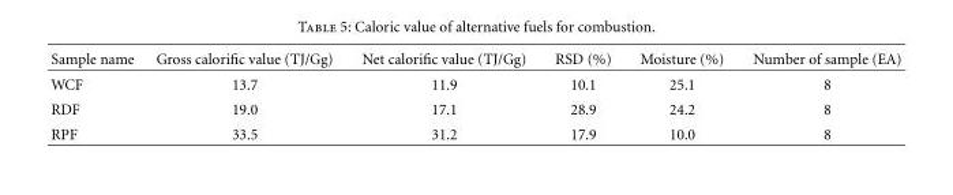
<table><thead><tr><td>Sample name</td><td>Gross calorific value (TJ/Gg)</td><td>Net calorific value (TJ/Gg)</td><td>RSD (%)</td><td>Moisture (%)</td><td>Number of sample (EA)</td></tr></thead><tbody><tr><td>WCF</td><td>13.7</td><td>11.9</td><td>10.1</td><td>25.1</td><td>8</td></tr><tr><td>RDF</td><td>19.0</td><td>17.1</td><td>28.9</td><td>24.2</td><td>8</td></tr><tr><td>RPF</td><td>33.5</td><td>31.2</td><td>17.9</td><td>10.0</td><td>8</td></tr></tbody></table>